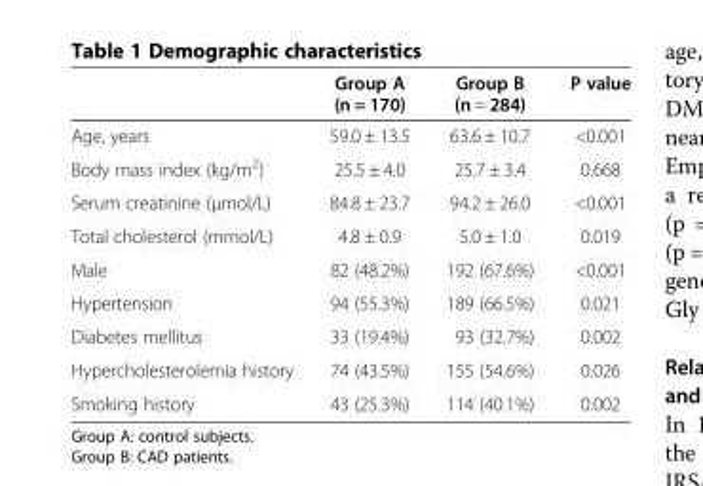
<table><thead><tr><td></td><td>Group A (n = 170)</td><td>Group B (n = 284)</td><td>P value</td></tr></thead><tbody><tr><td>Age, years</td><td>59.0 ± 13.5</td><td>63.6 ± 10.7</td><td>&lt;0.001</td></tr><tr><td>Body mass index (kg/m<sup>2</sup>)</td><td>25.5 ± 4.0</td><td>25.7 ± 3.4</td><td>0.668</td></tr><tr><td>Serum creatinine (μmol/L)</td><td>84.8 ± 23.7</td><td>94.2 ± 26.0</td><td>&lt;0.001</td></tr><tr><td>Total cholesterol (mmol/L)</td><td>4.8 ± 0.9</td><td>5.0 ± 1.0</td><td>0.019</td></tr><tr><td>Male</td><td>82 (48.2%)</td><td>192 (67.6%)</td><td>&lt;0.001</td></tr><tr><td>Hypertension</td><td>94 (55.3%)</td><td>189 (66.5%)</td><td>0.021</td></tr><tr><td>Diabetes mellitus</td><td>33 (19.4%)</td><td>93 (32.7%)</td><td>0.002</td></tr><tr><td>Hypercholesterolemia history</td><td>74 (43.5%)</td><td>155 (54.6%)</td><td>0.026</td></tr><tr><td>Smoking history</td><td>43 (25.3%)</td><td>114 (40.1%)</td><td>0.002</td></tr></tbody></table>